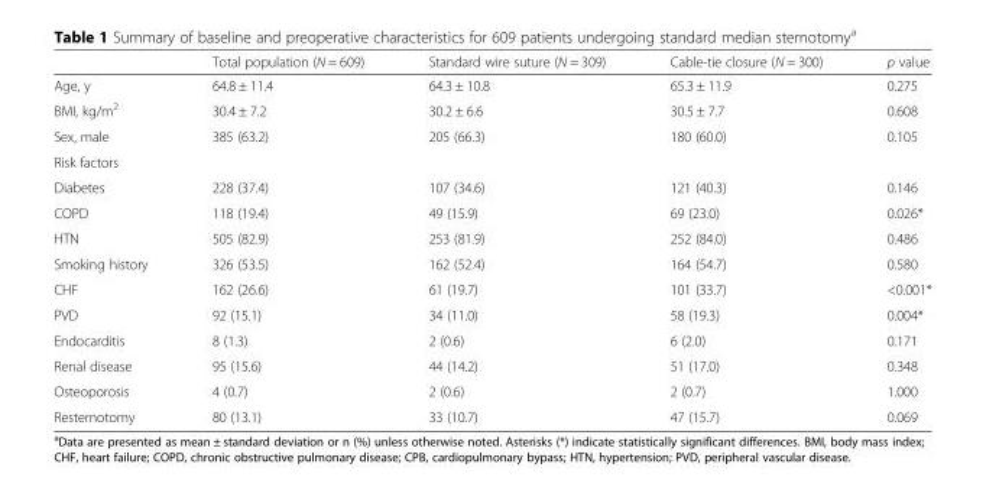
<table><thead><tr><td></td><td>Total population (N = 609)</td><td>Standard wire suture (N = 309)</td><td>Cable-tie closure (N = 300)</td><td>p value</td></tr></thead><tbody><tr><td>Age, y</td><td>64.8 ± 11.4</td><td>64.3 ± 10.8</td><td>65.3 ± 11.9</td><td>0.275</td></tr><tr><td>BMI, kg/m<sup>2</sup></td><td>30.4 ± 7.2</td><td>30.2 ± 6.6</td><td>30.5 ± 7.7</td><td>0.608</td></tr><tr><td>Sex, male</td><td>385 (63.2)</td><td>205 (66.3)</td><td>180 (60.0)</td><td>0.105</td></tr><tr><td colspan="5">Risk factors</td></tr><tr><td>Diabetes</td><td>228 (37.4)</td><td>107 (34.6)</td><td>121 (40.3)</td><td>0.146</td></tr><tr><td>COPD</td><td>118 (19.4)</td><td>49 (15.9)</td><td>69 (23.0)</td><td>0.026*</td></tr><tr><td>HTN</td><td>505 (82.9)</td><td>253 (81.9)</td><td>252 (84.0)</td><td>0.486</td></tr><tr><td>Smoking history</td><td>326 (53.5)</td><td>162 (52.4)</td><td>164 (54.7)</td><td>0.580</td></tr><tr><td>CHF</td><td>162 (26.6)</td><td>61 (19.7)</td><td>101 (33.7)</td><td>&lt;0.001*</td></tr><tr><td>PVD</td><td>92 (15.1)</td><td>34 (11.0)</td><td>58 (19.3)</td><td>0.004*</td></tr><tr><td>Endocarditis</td><td>8 (1.3)</td><td>2 (0.6)</td><td>6 (2.0)</td><td>0.171</td></tr><tr><td>Renal disease</td><td>95 (15.6)</td><td>44 (14.2)</td><td>51 (17.0)</td><td>0.348</td></tr><tr><td>Osteoporosis</td><td>4 (0.7)</td><td>2 (0.6)</td><td>2 (0.7)</td><td>1.000</td></tr><tr><td>Resternotomy</td><td>80 (13.1)</td><td>33 (10.7)</td><td>47 (15.7)</td><td>0.069</td></tr></tbody></table>